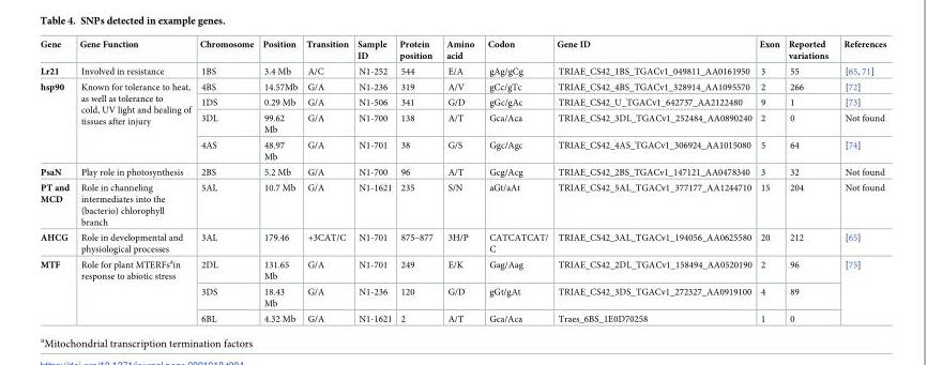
<table><thead><tr><td>Gene</td><td>Gene Function</td><td>Chromosome</td><td>Position</td><td>Transition</td><td>Sample ID</td><td>Protein position</td><td>Amino acid</td><td>Codon</td><td>Gene ID</td><td>Exon</td><td>Reported variations</td><td>References</td></tr></thead><tbody><tr><td>Lr21</td><td>Involved in resistance</td><td>1BS</td><td>3.4 Mb</td><td>A/C</td><td>N1-252</td><td>544</td><td>E/A</td><td>gAg/gCg</td><td>TRIAE_CS42_1BS_TGACv1_049811_AA0161950</td><td>3</td><td>55</td><td>[65, 71]</td></tr><tr><td rowspan="4">hsp90</td><td rowspan="4">Known for tolerance to heat, as well as tolerance to cold, UV light and healing of tissues after injury</td><td>4BS</td><td>14.57Mb</td><td>G/A</td><td>N1-236</td><td>319</td><td>A/V</td><td>gCc/gTc</td><td>TRIAE_CS42_4BS_TGACv1_328914_AA1095570</td><td>2</td><td>266</td><td>[72]</td></tr><tr><td>1DS</td><td>0.29 Mb</td><td>G/A</td><td>N1-506</td><td>341</td><td>G/D</td><td>gGc/gAc</td><td>TRIAE_CS42_U_TGACv1_642737_AA2122480</td><td>9</td><td>1</td><td>[73]</td></tr><tr><td>3DL</td><td>99.62 Mb</td><td>G/A</td><td>N1-700</td><td>138</td><td>A/T</td><td>Gca/Aca</td><td>TRIAE_CS42_3DL_TGACv1_252484_AA0890240</td><td>2</td><td>0</td><td>Not found</td></tr><tr><td>4AS</td><td>48.97 Mb</td><td>G/A</td><td>N1-701</td><td>38</td><td>G/S</td><td>Ggc/Agc</td><td>TRIAE_CS42_4AS_TGACv1_306924_AA1015080</td><td>5</td><td>64</td><td>[74]</td></tr><tr><td>PsaN</td><td>Play role in photosynthesis</td><td>2BS</td><td>5.2 Mb</td><td>G/A</td><td>N1-700</td><td>96</td><td>A/T</td><td>Gcg/Acg</td><td>TRIAE_CS42_2BS_TGACv1_147121_AA0478340</td><td>3</td><td>32</td><td>Not found</td></tr><tr><td>PT and MCD</td><td>Role in channeling intermediates into the (bacterio) chlorophyll branch</td><td>5AL</td><td>10.7 Mb</td><td>G/A</td><td>N1-1621</td><td>235</td><td>S/N</td><td>aGt/aAt</td><td>TRIAE_CS42_5AL_TGACv1_377177_AA1244710</td><td>15</td><td>204</td><td>Not found</td></tr><tr><td>AHCG</td><td>Role in developmental and physiological processes</td><td>3AL</td><td>179.46</td><td>+3CAT/C</td><td>N1-701</td><td>875–877</td><td>3H/P</td><td>CATCATCAT/ C</td><td>TRIAE_CS42_3AL_TGACv1_194056_AA0625580</td><td>20</td><td>212</td><td>[65]</td></tr><tr><td rowspan="3">MTF</td><td rowspan="3">Role for plant MTERFs<sup>a</sup>in response to abiotic stress</td><td>2DL</td><td>131.65 Mb</td><td>G/A</td><td>N1-701</td><td>249</td><td>E/K</td><td>Gag/Aag</td><td>TRIAE_CS42_2DL_TGACv1_158494_AA0520190</td><td>2</td><td>96</td><td rowspan="3">[75]</td></tr><tr><td>3DS</td><td>18.43 Mb</td><td>G/A</td><td>N1-236</td><td>120</td><td>G/D</td><td>gGt/gAt</td><td>TRIAE_CS42_3DS_TGACv1_272327_AA0919100</td><td>4</td><td>89</td></tr><tr><td>6BL</td><td>4.32 Mb</td><td>G/A</td><td>N1-1621</td><td>2</td><td>A/T</td><td>Gca/Aca</td><td>Traes_6BS_1E0D70258</td><td>1</td><td>0</td></tr></tbody></table>